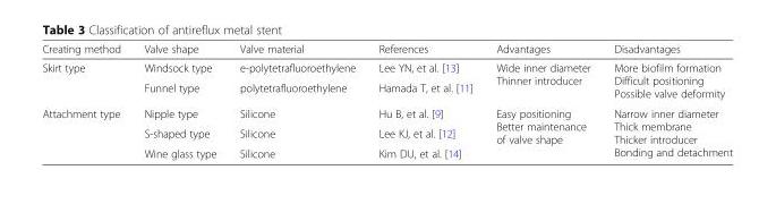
<table><thead><tr><td>Creating method</td><td>Valve shape</td><td>Valve material</td><td>References</td><td>Advantages</td><td>Disadvantages</td></tr></thead><tbody><tr><td rowspan="2">Skirt type</td><td>Windsock type</td><td>e-polytetrafluoroethylene</td><td>Lee YN, et al. [13]</td><td rowspan="2">Wide inner diameter Thinner introducer</td><td rowspan="2">More biofilm formation Difficult positioning Possible valve deformity</td></tr><tr><td>Funnel type</td><td>polytetrafluoroethylene</td><td>Hamada T, et al. [11]</td></tr><tr><td rowspan="3">Attachment type</td><td>Nipple type</td><td>Silicone</td><td>Hu B, et al. [9]</td><td rowspan="3">Easy positioning Better maintenance of valve shape</td><td rowspan="3">Narrow inner diameter Thick membrane Thicker introducer Bonding and detachment</td></tr><tr><td>S-shaped type</td><td>Silicone</td><td>Lee KJ, et al. [12]</td></tr><tr><td>Wine glass type</td><td>Silicone</td><td>Kim DU, et al. [14]</td></tr></tbody></table>